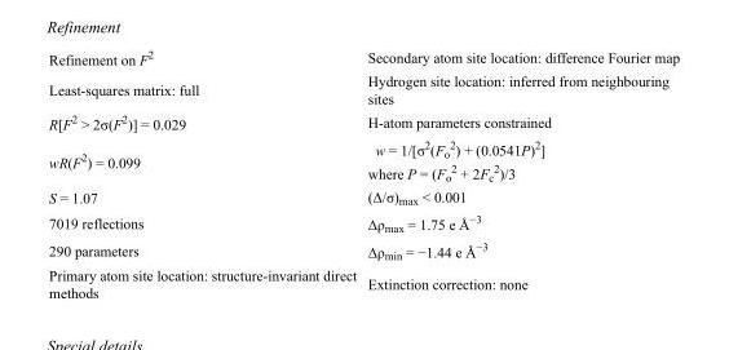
<table><tbody><tr><td>Refinement on F<sup>2</sup></td><td>Secondary atom site location: difference Fourier map</td></tr><tr><td>Least-squares matrix: full</td><td>Hydrogen site location: inferred from neighbouring sites</td></tr><tr><td>R[F<sup>2</sup> &gt; 2σ(F<sup>2</sup>)] = 0.029</td><td>H-atom parameters constrained</td></tr><tr><td>wR(F<sup>2</sup>) = 0.099</td><td>w = 1/[σ<sup>2</sup>(F<sub>o</sub> <sup>2</sup>) + (0.0541P)<sup>2</sup>] where P = (F<sub>o</sub> <sup>2</sup> + 2F<sub>c</sub> <sup>2</sup>)/3</td></tr><tr><td>S = 1.07</td><td>(Δ/σ)<sub>max</sub> &lt; 0.001</td></tr><tr><td>7019 reflections</td><td>Δρ<sub>max</sub> = 1.75 e Å<sup>−3</sup></td></tr><tr><td>290 parameters</td><td>Δρ<sub>min</sub> = −1.44 e Å<sup>−3</sup></td></tr><tr><td>Primary atom site location: structure-invariant direct methods</td><td>Extinction correction: none</td></tr></tbody></table>